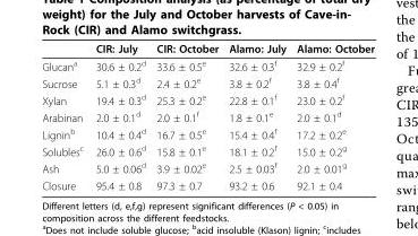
<table><thead><tr><td></td><td>CIR: July</td><td>CIR: October</td><td>Alamo: July</td><td>Alamo: October</td></tr></thead><tbody><tr><td>Glucan<sup>a</sup></td><td>30.6 ± 0.2<sup>d</sup></td><td>33.6 ± 0.5<sup>e</sup></td><td>32.6 ± 0.3<sup>f</sup></td><td>32.9 ± 0.2<sup>f</sup></td></tr><tr><td>Sucrose</td><td>5.1 ± 0.3<sup>d</sup></td><td>2.4 ± 0.2<sup>e</sup></td><td>3.8 ± 0.2<sup>f</sup></td><td>3.8 ± 0.4<sup>f</sup></td></tr><tr><td>Xylan</td><td>19.4 ± 0.3<sup>d</sup></td><td>25.3 ± 0.2<sup>e</sup></td><td>22.8 ± 0.1<sup>f</sup></td><td>23.0 ± 0.2<sup>f</sup></td></tr><tr><td>Arabinan</td><td>2.0 ± 0.1<sup>d</sup></td><td>2.0 ± 0.1<sup>f</sup></td><td>1.8 ± 0.1<sup>e</sup></td><td>2.0 ± 0.1<sup>d</sup></td></tr><tr><td>Lignin<sup>b</sup></td><td>10.4 ± 0.4<sup>d</sup></td><td>16.7 ± 0.5<sup>e</sup></td><td>15.4 ± 0.4<sup>f</sup></td><td>17.2 ± 0.2<sup>e</sup></td></tr><tr><td>Solubles<sup>c</sup></td><td>26.0 ± 0.6<sup>d</sup></td><td>15.8 ± 0.1<sup>e</sup></td><td>18.1 ± 0.2<sup>f</sup></td><td>15.0 ± 0.2<sup>g</sup></td></tr><tr><td>Ash</td><td>5.0 ± 0.06<sup>d</sup></td><td>3.9 ± 0.02<sup>e</sup></td><td>2.5 ± 0.03<sup>f</sup></td><td>2.0 ± 0.01<sup>g</sup></td></tr><tr><td>Closure</td><td>95.4 ± 0.8</td><td>97.3 ± 0.7</td><td>93.2 ± 0.6</td><td>92.1 ± 0.4</td></tr></tbody></table>